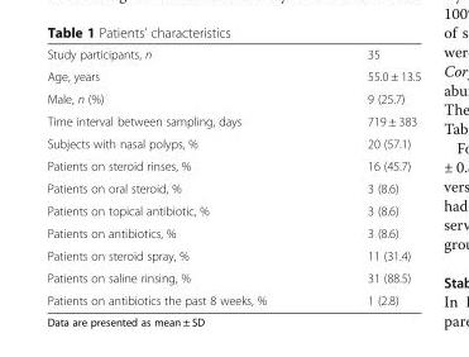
<table><tbody><tr><td>Study participants, n</td><td>35</td></tr><tr><td>Age, years</td><td>55.0 ± 13.5</td></tr><tr><td>Male, n (%)</td><td>9 (25.7)</td></tr><tr><td>Time interval between sampling, days</td><td>719 ± 383</td></tr><tr><td>Subjects with nasal polyps, %</td><td>20 (57.1)</td></tr><tr><td>Patients on steroid rinses, %</td><td>16 (45.7)</td></tr><tr><td>Patients on oral steroid, %</td><td>3 (8.6)</td></tr><tr><td>Patients on topical antibiotic, %</td><td>3 (8.6)</td></tr><tr><td>Patients on antibiotics, %</td><td>3 (8.6)</td></tr><tr><td>Patients on steroid spray, %</td><td>11 (31.4)</td></tr><tr><td>Patients on saline rinsing, %</td><td>31 (88.5)</td></tr><tr><td>Patients on antibiotics the past 8 weeks, %</td><td>1 (2.8)</td></tr></tbody></table>